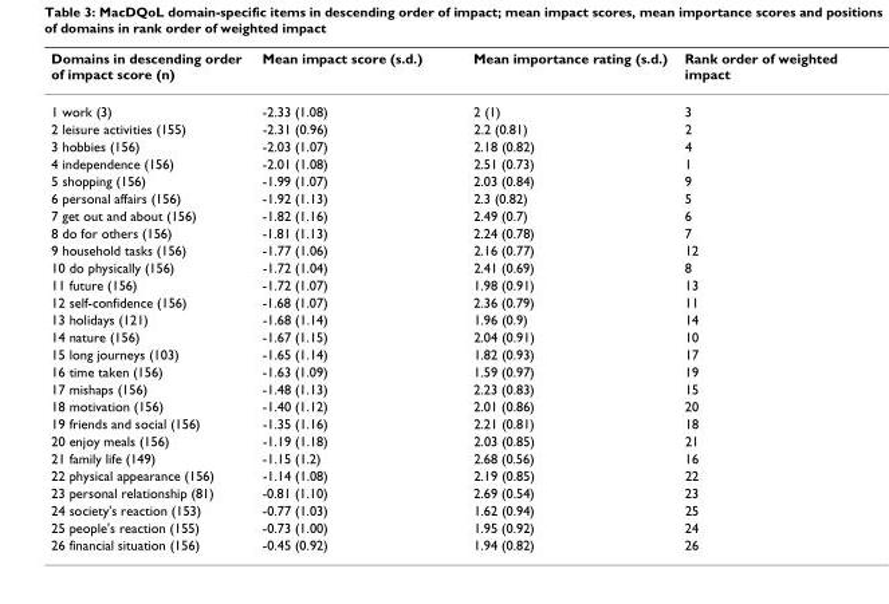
<table><thead><tr><td>Domains in descending order of impact score (n)</td><td>Mean impact score (s.d.)</td><td>Mean importance rating (s.d.)</td><td>Rank order of weighted impact</td></tr></thead><tbody><tr><td>1 work (3)</td><td>-2.33 (1.08)</td><td>2 (1)</td><td>3</td></tr><tr><td>2 leisure activities (155)</td><td>-2.31 (0.96)</td><td>2.2 (0.81)</td><td>2</td></tr><tr><td>3 hobbies (156)</td><td>-2.03 (1.07)</td><td>2.18 (0.82)</td><td>4</td></tr><tr><td>4 independence (156)</td><td>-2.01 (1.08)</td><td>2.51 (0.73)</td><td>1</td></tr><tr><td>5 shopping (156)</td><td>-1.99 (1.07)</td><td>2.03 (0.84)</td><td>9</td></tr><tr><td>6 personal affairs (156)</td><td>-1.92 (1.13)</td><td>2.3 (0.82)</td><td>5</td></tr><tr><td>7 get out and about (156)</td><td>-1.82 (1.16)</td><td>2.49 (0.7)</td><td>6</td></tr><tr><td>8 do for others (156)</td><td>-1.81 (1.13)</td><td>2.24 (0.78)</td><td>7</td></tr><tr><td>9 household tasks (156)</td><td>-1.77 (1.06)</td><td>2.16 (0.77)</td><td>12</td></tr><tr><td>10 do physically (156)</td><td>-1.72 (1.04)</td><td>2.41 (0.69)</td><td>8</td></tr><tr><td>11 future (156)</td><td>-1.72 (1.07)</td><td>1.98 (0.91)</td><td>13</td></tr><tr><td>12 self-confidence (156)</td><td>-1.68 (1.07)</td><td>2.36 (0.79)</td><td>11</td></tr><tr><td>13 holidays (121)</td><td>-1.68 (1.14)</td><td>1.96 (0.9)</td><td>14</td></tr><tr><td>14 nature (156)</td><td>-1.67 (1.15)</td><td>2.04 (0.91)</td><td>10</td></tr><tr><td>15 long journeys (103)</td><td>-1.65 (1.14)</td><td>1.82 (0.93)</td><td>17</td></tr><tr><td>16 time taken (156)</td><td>-1.63 (1.09)</td><td>1.59 (0.97)</td><td>19</td></tr><tr><td>17 mishaps (156)</td><td>-1.48 (1.13)</td><td>2.23 (0.83)</td><td>15</td></tr><tr><td>18 motivation (156)</td><td>-1.40 (1.12)</td><td>2.01 (0.86)</td><td>20</td></tr><tr><td>19 friends and social (156)</td><td>-1.35 (1.16)</td><td>2.21 (0.81)</td><td>18</td></tr><tr><td>20 enjoy meals (156)</td><td>-1.19 (1.18)</td><td>2.03 (0.85)</td><td>21</td></tr><tr><td>21 family life (149)</td><td>-1.15 (1.2)</td><td>2.68 (0.56)</td><td>16</td></tr><tr><td>22 physical appearance (156)</td><td>-1.14 (1.08)</td><td>2.19 (0.85)</td><td>22</td></tr><tr><td>23 personal relationship (81)</td><td>-0.81 (1.10)</td><td>2.69 (0.54)</td><td>23</td></tr><tr><td>24 society&#x27;s reaction (153)</td><td>-0.77 (1.03)</td><td>1.62 (0.94)</td><td>25</td></tr><tr><td>25 people&#x27;s reaction (155)</td><td>-0.73 (1.00)</td><td>1.95 (0.92)</td><td>24</td></tr><tr><td>26 financial situation (156)</td><td>-0.45 (0.92)</td><td>1.94 (0.82)</td><td>26</td></tr></tbody></table>